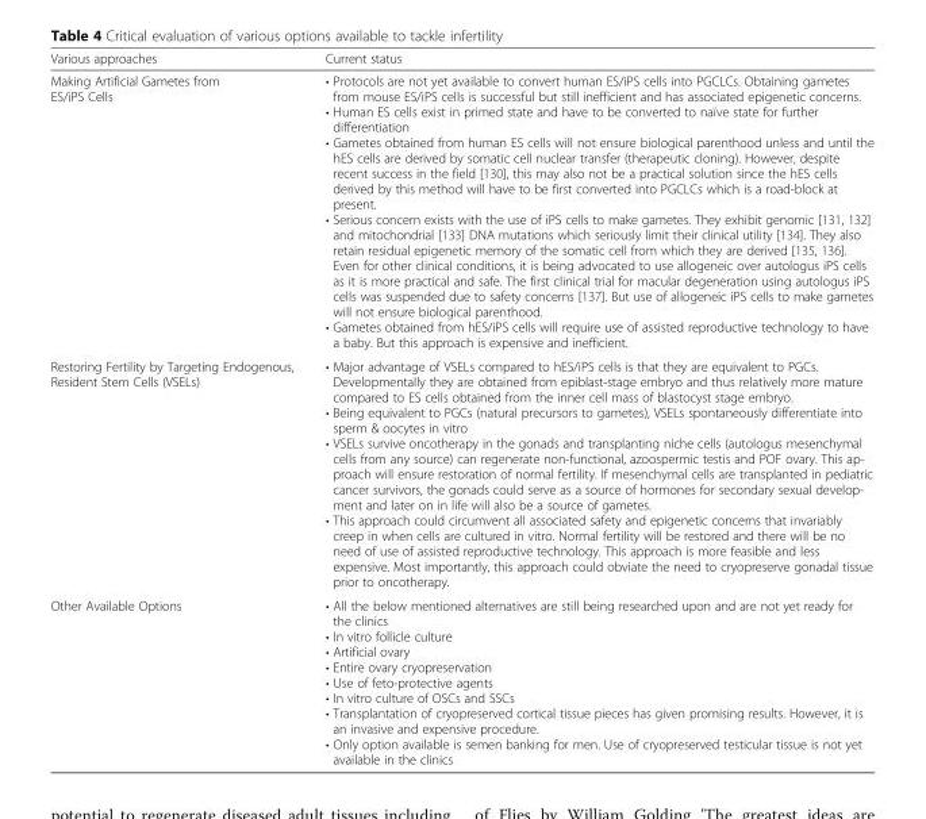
<table><thead><tr><td>Various approaches</td><td>Current status</td></tr></thead><tbody><tr><td>Making Artificial Gametes from ES/iPS Cells</td><td>• Protocols are not yet available to convert human ES/iPS cells into PGCLCs. Obtaining gametes from mouse ES/iPS cells is successful but still inefficient and has associated epigenetic concerns. • Human ES cells exist in primed state and have to be converted to naïve state for further differentiation • Gametes obtained from human ES cells will not ensure biological parenthood unless and until the hES cells are derived by somatic cell nuclear transfer (therapeutic cloning). However, despite recent success in the field [130], this may also not be a practical solution since the hES cells derived by this method will have to be first converted into PGCLCs which is a road-block at present. • Serious concern exists with the use of iPS cells to make gametes. They exhibit genomic [131, 132] and mitochondrial [133] DNA mutations which seriously limit their clinical utility [134]. They also retain residual epigenetic memory of the somatic cell from which they are derived [135, 136]. Even for other clinical conditions, it is being advocated to use allogeneic over autologus iPS cells as it is more practical and safe. The first clinical trial for macular degeneration using autologus iPS cells was suspended due to safety concerns [137]. But use of allogeneic iPS cells to make gametes will not ensure biological parenthood. • Gametes obtained from hES/iPS cells will require use of assisted reproductive technology to have a baby. But this approach is expensive and inefficient.</td></tr><tr><td>Restoring Fertility by Targeting Endogenous, Resident Stem Cells (VSELs)</td><td>• Major advantage of VSELs compared to hES/iPS cells is that they are equivalent to PGCs. Developmentally they are obtained from epiblast-stage embryo and thus relatively more mature compared to ES cells obtained from the inner cell mass of blastocyst stage embryo. • Being equivalent to PGCs (natural precursors to gametes), VSELs spontaneously differentiate into sperm &amp; oocytes in vitro • VSELs survive oncotherapy in the gonads and transplanting niche cells (autologus mesenchymal cells from any source) can regenerate non-functional, azoospermic testis and POF ovary. This ap- proach will ensure restoration of normal fertility. If mesenchymal cells are transplanted in pediatric cancer survivors, the gonads could serve as a source of hormones for secondary sexual develop- ment and later on in life will also be a source of gametes. • This approach could circumvent all associated safety and epigenetic concerns that invariably creep in when cells are cultured in vitro. Normal fertility will be restored and there will be no need of use of assisted reproductive technology. This approach is more feasible and less expensive. Most importantly, this approach could obviate the need to cryopreserve gonadal tissue prior to oncotherapy.</td></tr><tr><td>Other Available Options</td><td>• All the below mentioned alternatives are still being researched upon and are not yet ready for the clinics • In vitro follicle culture • Artificial ovary • Entire ovary cryopreservation • Use of feto-protective agents • In vitro culture of OSCs and SSCs • Transplantation of cryopreserved cortical tissue pieces has given promising results. However, it is an invasive and expensive procedure. • Only option available is semen banking for men. Use of cryopreserved testicular tissue is not yet available in the clinics</td></tr></tbody></table>